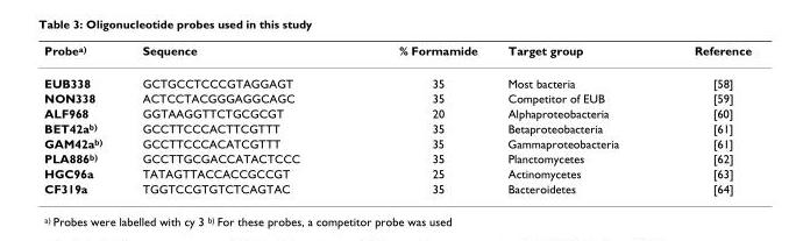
<table><thead><tr><td>Probe<sup>a)</sup></td><td>Sequence</td><td>% Formamide</td><td>Target group</td><td>Reference</td></tr></thead><tbody><tr><td>EUB338</td><td>GCTGCCTCCCGTAGGAGT</td><td>35</td><td>Most bacteria</td><td>[58]</td></tr><tr><td>NON338</td><td>ACTCCTACGGGAGGCAGC</td><td>35</td><td>Competitor of EUB</td><td>[59]</td></tr><tr><td>ALF968</td><td>GGTAAGGTTCTGCGCGT</td><td>20</td><td>Alphaproteobacteria</td><td>[60]</td></tr><tr><td>BET42a<sup>b)</sup></td><td>GCCTTCCCACTTCGTTT</td><td>35</td><td>Betaproteobacteria</td><td>[61]</td></tr><tr><td>GAM42a<sup>b)</sup></td><td>GCCTTCCCACATCGTTT</td><td>35</td><td>Gammaproteobacteria</td><td>[61]</td></tr><tr><td>PLA886<sup>b)</sup></td><td>GCCTTGCGACCATACTCCC</td><td>35</td><td>Planctomycetes</td><td>[62]</td></tr><tr><td>HGC96a</td><td>TATAGTTACCACCGCCGT</td><td>25</td><td>Actinomycetes</td><td>[63]</td></tr><tr><td>CF319a</td><td>TGGTCCGTGTCTCAGTAC</td><td>35</td><td>Bacteroidetes</td><td>[64]</td></tr></tbody></table>